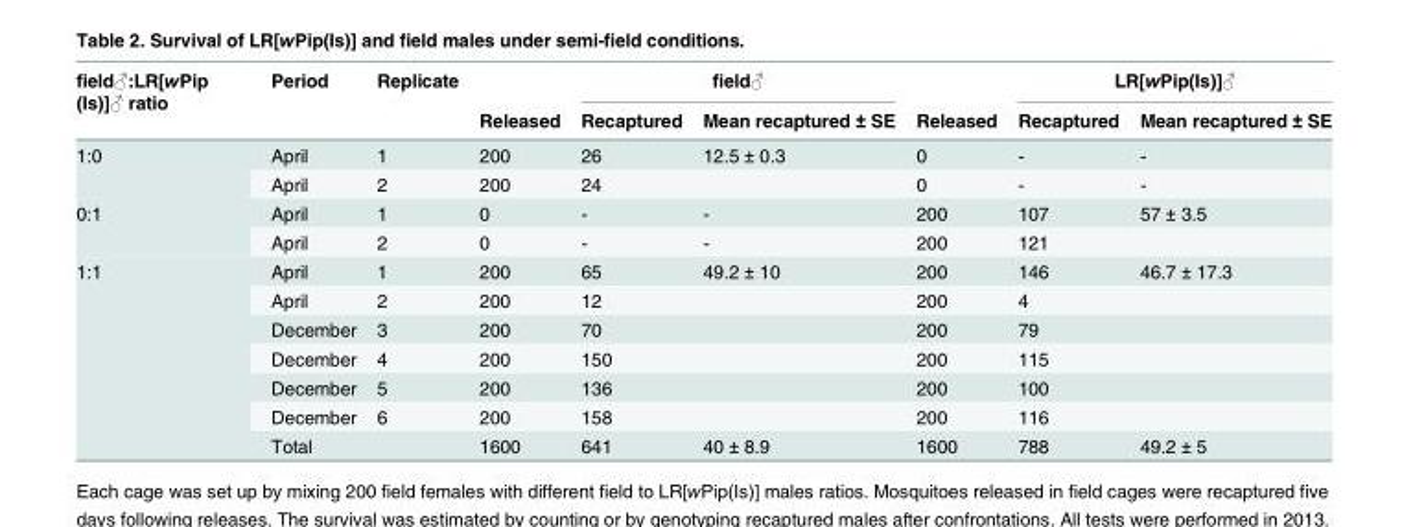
<table><thead><tr><td rowspan="2">field♂:LR[wPip (Is)]♂ ratio</td><td rowspan="2">Period</td><td rowspan="2">Replicate</td><td rowspan="2">Released</td><td colspan="2">field♂</td><td rowspan="2">Released</td><td colspan="2">LR[wPip(Is)]♂</td></tr><tr><td>Recaptured</td><td>Mean recaptured ± SE</td><td>Recaptured</td><td>Mean recaptured ± SE</td></tr></thead><tbody><tr><td rowspan="2">1:0</td><td>April</td><td>1</td><td>200</td><td>26</td><td>12.5 ± 0.3</td><td>0</td><td>-</td><td>-</td></tr><tr><td>April</td><td>2</td><td>200</td><td>24</td><td></td><td>0</td><td>-</td><td>-</td></tr><tr><td rowspan="2">0:1</td><td>April</td><td>1</td><td>0</td><td>-</td><td>-</td><td>200</td><td>107</td><td>57 ± 3.5</td></tr><tr><td>April</td><td>2</td><td>0</td><td>-</td><td>-</td><td>200</td><td>121</td><td></td></tr><tr><td rowspan="7">1:1</td><td>April</td><td>1</td><td>200</td><td>65</td><td>49.2 ± 10</td><td>200</td><td>146</td><td>46.7 ± 17.3</td></tr><tr><td>April</td><td>2</td><td>200</td><td>12</td><td></td><td>200</td><td>4</td><td></td></tr><tr><td>December</td><td>3</td><td>200</td><td>70</td><td></td><td>200</td><td>79</td><td></td></tr><tr><td>December</td><td>4</td><td>200</td><td>150</td><td></td><td>200</td><td>115</td><td></td></tr><tr><td>December</td><td>5</td><td>200</td><td>136</td><td></td><td>200</td><td>100</td><td></td></tr><tr><td>December</td><td>6</td><td>200</td><td>158</td><td></td><td>200</td><td>116</td><td></td></tr><tr><td>Total</td><td></td><td>1600</td><td>641</td><td>40 ± 8.9</td><td>1600</td><td>788</td><td>49.2 ± 5</td></tr></tbody></table>